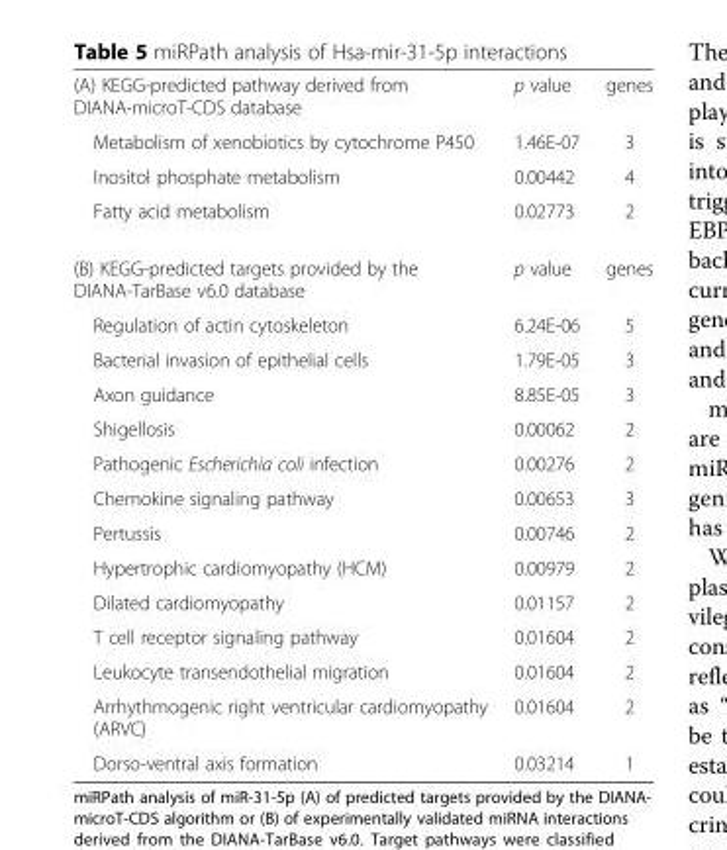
<table><tbody><tr><td>(A) KEGG-predicted pathway derived from DIANA-microT-CDS database</td><td>p value</td><td>genes</td></tr><tr><td>Metabolism of xenobiotics by cytochrome P450</td><td>1.46E-07</td><td>3</td></tr><tr><td>Inositol phosphate metabolism</td><td>0.00442</td><td>4</td></tr><tr><td>Fatty acid metabolism</td><td>0.02773</td><td>2</td></tr><tr><td>(B) KEGG-predicted targets provided by the DIANA-TarBase v6.0 database</td><td>p value</td><td>genes</td></tr><tr><td>Regulation of actin cytoskeleton</td><td>6.24E-06</td><td>5</td></tr><tr><td>Bacterial invasion of epithelial cells</td><td>1.79E-05</td><td>3</td></tr><tr><td>Axon guidance</td><td>8.85E-05</td><td>3</td></tr><tr><td>Shigellosis</td><td>0.00062</td><td>2</td></tr><tr><td>Pathogenic Escherichia coli infection</td><td>0.00276</td><td>2</td></tr><tr><td>Chemokine signaling pathway</td><td>0.00653</td><td>3</td></tr><tr><td>Pertussis</td><td>0.00746</td><td>2</td></tr><tr><td>Hypertrophic cardiomyopathy (HCM)</td><td>0.00979</td><td>2</td></tr><tr><td>Dilated cardiomyopathy</td><td>0.01157</td><td>2</td></tr><tr><td>T cell receptor signaling pathway</td><td>0.01604</td><td>2</td></tr><tr><td>Leukocyte transendothelial migration</td><td>0.01604</td><td>2</td></tr><tr><td>Arrhythmogenic right ventricular cardiomyopathy (ARVC)</td><td>0.01604</td><td>2</td></tr><tr><td>Dorso-ventral axis formation</td><td>0.03214</td><td>1</td></tr></tbody></table>